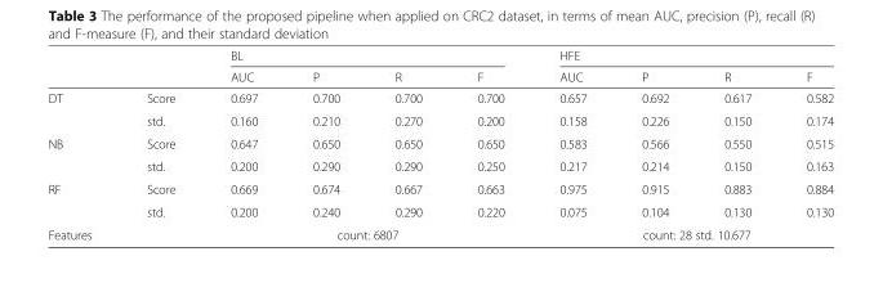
<table><thead><tr><td rowspan="2"></td><td rowspan="2"></td><td colspan="4">BL</td><td colspan="4">HFE</td></tr><tr><td>AUC</td><td>P</td><td>R</td><td>F</td><td>AUC</td><td>P</td><td>R</td><td>F</td></tr></thead><tbody><tr><td rowspan="2">DT</td><td>Score</td><td>0.697</td><td>0.700</td><td>0.700</td><td>0.700</td><td>0.657</td><td>0.692</td><td>0.617</td><td>0.582</td></tr><tr><td>std.</td><td>0.160</td><td>0.210</td><td>0.270</td><td>0.200</td><td>0.158</td><td>0.226</td><td>0.150</td><td>0.174</td></tr><tr><td rowspan="2">NB</td><td>Score</td><td>0.647</td><td>0.650</td><td>0.650</td><td>0.650</td><td>0.583</td><td>0.566</td><td>0.550</td><td>0.515</td></tr><tr><td>std.</td><td>0.200</td><td>0.290</td><td>0.290</td><td>0.250</td><td>0.217</td><td>0.214</td><td>0.150</td><td>0.163</td></tr><tr><td rowspan="2">RF</td><td>Score</td><td>0.669</td><td>0.674</td><td>0.667</td><td>0.663</td><td>0.975</td><td>0.915</td><td>0.883</td><td>0.884</td></tr><tr><td>std.</td><td>0.200</td><td>0.240</td><td>0.290</td><td>0.220</td><td>0.075</td><td>0.104</td><td>0.130</td><td>0.130</td></tr><tr><td>Features</td><td></td><td colspan="4">count: 6807</td><td colspan="4">count: 28 std. 10.677</td></tr></tbody></table>